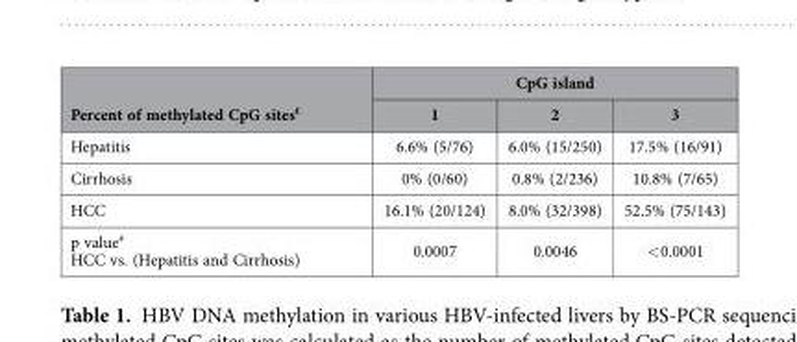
<table><thead><tr><td rowspan="2">Percent of methylated CpG sites€</td><td colspan="3">CpG island</td></tr><tr><td>1</td><td>2</td><td>3</td></tr></thead><tbody><tr><td>Hepatitis</td><td>6.6% (5/76)</td><td>6.0% (15/250)</td><td>17.5% (16/91)</td></tr><tr><td>Cirrhosis</td><td>0% (0/60)</td><td>0.8% (2/236)</td><td>10.8% (7/65)</td></tr><tr><td>HCC</td><td>16.1% (20/124)</td><td>8.0% (32/398)</td><td>52.5% (75/143)</td></tr><tr><td>p value# HCC vs. (Hepatitis and Cirrhosis)</td><td>0.0007</td><td>0.0046</td><td>&lt; 0.0001</td></tr></tbody></table>